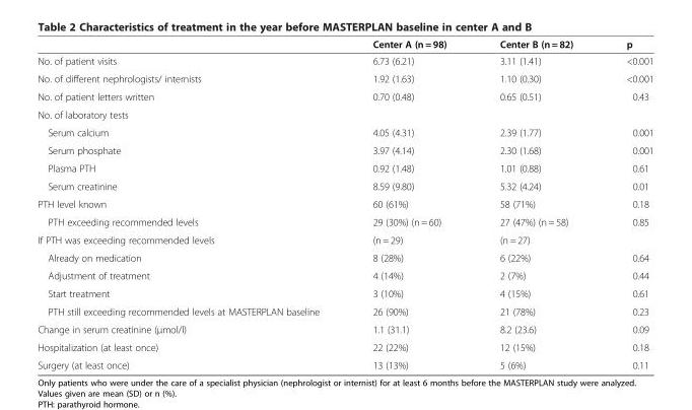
<table><thead><tr><td></td><td>Center A (n = 98)</td><td>Center B (n = 82)</td><td>p</td></tr></thead><tbody><tr><td>No. of patient visits</td><td>6.73 (6.21)</td><td>3.11 (1.41)</td><td>&lt;0.001</td></tr><tr><td>No. of different nephrologists/ internists</td><td>1.92 (1.63)</td><td>1.10 (0.30)</td><td>&lt;0.001</td></tr><tr><td>No. of patient letters written</td><td>0.70 (0.48)</td><td>0.65 (0.51)</td><td>0.43</td></tr><tr><td colspan="4">No. of laboratory tests</td></tr><tr><td>Serum calcium</td><td>4.05 (4.31)</td><td>2.39 (1.77)</td><td>0.001</td></tr><tr><td>Serum phosphate</td><td>3.97 (4.14)</td><td>2.30 (1.68)</td><td>0.001</td></tr><tr><td>Plasma PTH</td><td>0.92 (1.48)</td><td>1.01 (0.88)</td><td>0.61</td></tr><tr><td>Serum creatinine</td><td>8.59 (9.80)</td><td>5.32 (4.24)</td><td>0.01</td></tr><tr><td>PTH level known</td><td>60 (61%)</td><td>58 (71%)</td><td>0.18</td></tr><tr><td>PTH exceeding recommended levels</td><td>29 (30%) (n = 60)</td><td>27 (47%) (n = 58)</td><td>0.85</td></tr><tr><td>If PTH was exceeding recommended levels</td><td>(n = 29)</td><td>(n = 27)</td><td></td></tr><tr><td>Already on medication</td><td>8 (28%)</td><td>6 (22%)</td><td>0.64</td></tr><tr><td>Adjustment of treatment</td><td>4 (14%)</td><td>2 (7%)</td><td>0.44</td></tr><tr><td>Start treatment</td><td>3 (10%)</td><td>4 (15%)</td><td>0.61</td></tr><tr><td>PTH still exceeding recommended levels at MASTERPLAN baseline</td><td>26 (90%)</td><td>21 (78%)</td><td>0.23</td></tr><tr><td>Change in serum creatinine (μmol/l)</td><td>1.1 (31.1)</td><td>8.2 (23.6)</td><td>0.09</td></tr><tr><td>Hospitalization (at least once)</td><td>22 (22%)</td><td>12 (15%)</td><td>0.18</td></tr><tr><td>Surgery (at least once)</td><td>13 (13%)</td><td>5 (6%)</td><td>0.11</td></tr></tbody></table>